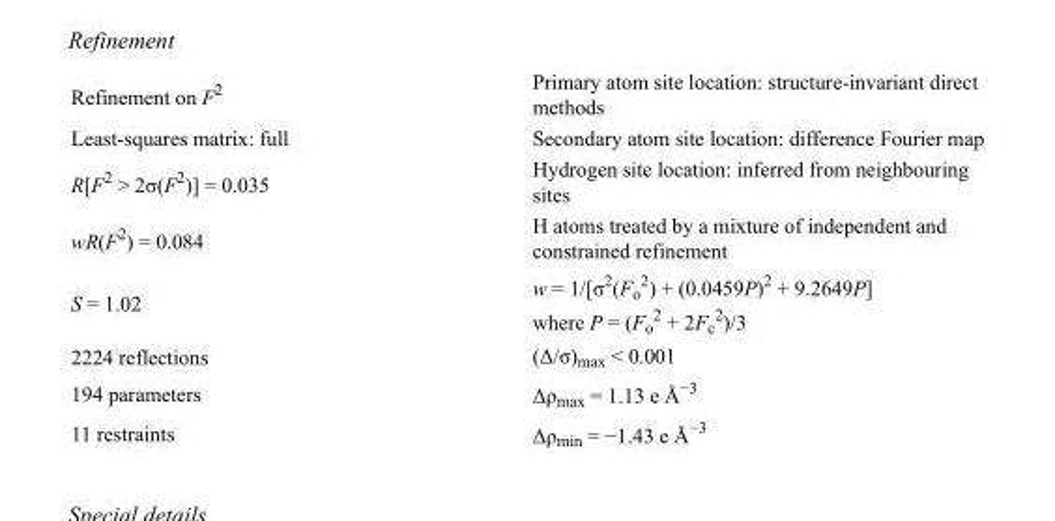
<table><tbody><tr><td>Refinement on F<sup>2</sup></td><td>Primary atom site location: structure-invariant direct methods</td></tr><tr><td>Least-squares matrix: full</td><td>Secondary atom site location: difference Fourier map</td></tr><tr><td>R[F<sup>2</sup> &gt; 2σ(F<sup>2</sup>)] = 0.035</td><td>Hydrogen site location: inferred from neighbouring sites</td></tr><tr><td>wR(F<sup>2</sup>) = 0.084</td><td>H atoms treated by a mixture of independent and constrained refinement</td></tr><tr><td>S = 1.02</td><td>w = 1/[σ<sup>2</sup>(F<sub>o</sub> <sup>2</sup>) + (0.0459P)<sup>2</sup> + 9.2649P] where P = (F<sub>o</sub> <sup>2</sup> + 2F<sub>c</sub> <sup>2</sup>)/3</td></tr><tr><td>2224 reflections</td><td>(Δ/σ)<sub>max</sub> &lt; 0.001</td></tr><tr><td>194 parameters</td><td>Δρ<sub>max</sub> = 1.13 e Å<sup>−3</sup></td></tr><tr><td>11 restraints</td><td>Δρ<sub>min</sub> = −1.43 e Å<sup>−3</sup></td></tr></tbody></table>